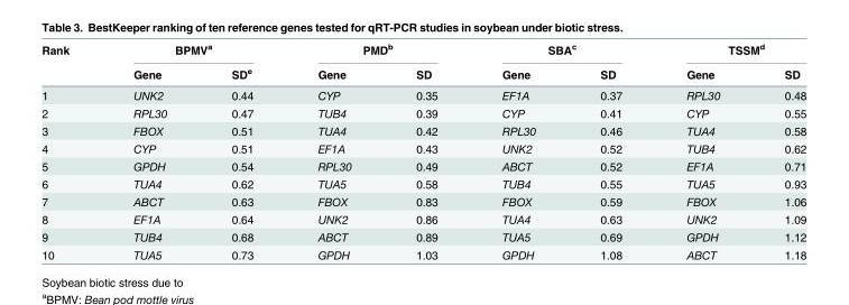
<table><thead><tr><td rowspan="2">Rank</td><td colspan="2">BPMV<sup>a</sup></td><td colspan="2">PMD<sup>b</sup></td><td colspan="2">SBA<sup>c</sup></td><td colspan="2">TSSM<sup>d</sup></td></tr><tr><td>Gene</td><td>SD<sup>e</sup></td><td>Gene</td><td>SD</td><td>Gene</td><td>SD</td><td>Gene</td><td>SD</td></tr></thead><tbody><tr><td>1</td><td>UNK2</td><td>0.44</td><td>CYP</td><td>0.35</td><td>EF1A</td><td>0.37</td><td>RPL30</td><td>0.48</td></tr><tr><td>2</td><td>RPL30</td><td>0.47</td><td>TUB4</td><td>0.39</td><td>CYP</td><td>0.41</td><td>CYP</td><td>0.55</td></tr><tr><td>3</td><td>FBOX</td><td>0.51</td><td>TUA4</td><td>0.42</td><td>RPL30</td><td>0.46</td><td>TUA4</td><td>0.58</td></tr><tr><td>4</td><td>CYP</td><td>0.51</td><td>EF1A</td><td>0.43</td><td>UNK2</td><td>0.52</td><td>TUB4</td><td>0.62</td></tr><tr><td>5</td><td>GPDH</td><td>0.54</td><td>RPL30</td><td>0.49</td><td>ABCT</td><td>0.52</td><td>EF1A</td><td>0.71</td></tr><tr><td>6</td><td>TUA4</td><td>0.62</td><td>TUA5</td><td>0.58</td><td>TUB4</td><td>0.55</td><td>TUA5</td><td>0.93</td></tr><tr><td>7</td><td>ABCT</td><td>0.63</td><td>FBOX</td><td>0.83</td><td>FBOX</td><td>0.59</td><td>FBOX</td><td>1.06</td></tr><tr><td>8</td><td>EF1A</td><td>0.64</td><td>UNK2</td><td>0.86</td><td>TUA4</td><td>0.63</td><td>UNK2</td><td>1.09</td></tr><tr><td>9</td><td>TUB4</td><td>0.68</td><td>ABCT</td><td>0.89</td><td>TUA5</td><td>0.69</td><td>GPDH</td><td>1.12</td></tr><tr><td>10</td><td>TUA5</td><td>0.73</td><td>GPDH</td><td>1.03</td><td>GPDH</td><td>1.08</td><td>ABCT</td><td>1.18</td></tr></tbody></table>